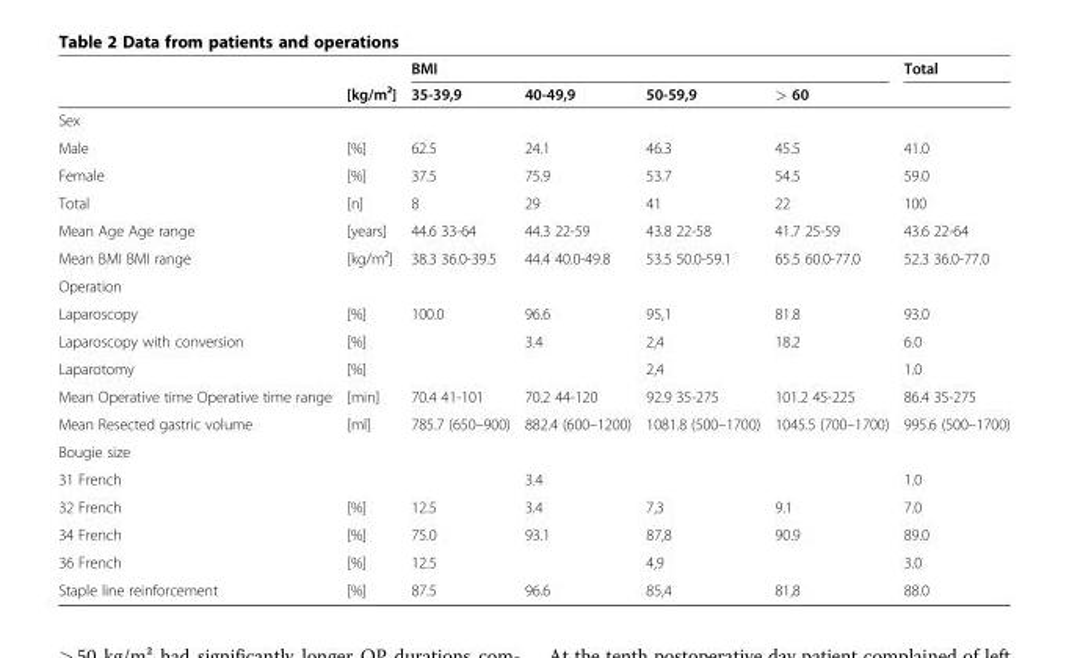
<table><thead><tr><td rowspan="2"></td><td rowspan="2">[kg/m²]</td><td colspan="4">BMI</td><td rowspan="2">Total</td></tr><tr><td>35-39,9</td><td>40-49,9</td><td>50-59,9</td><td>&gt; 60</td></tr></thead><tbody><tr><td colspan="7">Sex</td></tr><tr><td>Male</td><td>[%]</td><td>62.5</td><td>24.1</td><td>46.3</td><td>45.5</td><td>41.0</td></tr><tr><td>Female</td><td>[%]</td><td>37.5</td><td>75.9</td><td>53.7</td><td>54.5</td><td>59.0</td></tr><tr><td>Total</td><td>[n]</td><td>8</td><td>29</td><td>41</td><td>22</td><td>100</td></tr><tr><td>Mean Age Age range</td><td>[years]</td><td>44.6 33-64</td><td>44.3 22-59</td><td>43.8 22-58</td><td>41.7 25-59</td><td>43.6 22-64</td></tr><tr><td>Mean BMI BMI range</td><td>[kg/m²]</td><td>38.3 36.0-39.5</td><td>44.4 40.0-49.8</td><td>53.5 50.0-59.1</td><td>65.5 60.0-77.0</td><td>52.3 36.0-77.0</td></tr><tr><td colspan="7">Operation</td></tr><tr><td>Laparoscopy</td><td>[%]</td><td>100.0</td><td>96.6</td><td>95,1</td><td>81.8</td><td>93.0</td></tr><tr><td>Laparoscopy with conversion</td><td>[%]</td><td></td><td>3.4</td><td>2,4</td><td>18.2</td><td>6.0</td></tr><tr><td>Laparotomy</td><td>[%]</td><td></td><td></td><td>2,4</td><td></td><td>1.0</td></tr><tr><td>Mean Operative time Operative time range</td><td>[min]</td><td>70.4 41-101</td><td>70.2 44-120</td><td>92.9 35-275</td><td>101.2 45-225</td><td>86.4 35-275</td></tr><tr><td>Mean Resected gastric volume</td><td>[ml]</td><td>785.7 (650–900)</td><td>882.4 (600–1200)</td><td>1081.8 (500–1700)</td><td>1045.5 (700–1700)</td><td>995.6 (500–1700)</td></tr><tr><td colspan="7">Bougie size</td></tr><tr><td>31 French</td><td></td><td></td><td>3.4</td><td></td><td></td><td>1.0</td></tr><tr><td>32 French</td><td>[%]</td><td>12.5</td><td>3.4</td><td>7,3</td><td>9.1</td><td>7.0</td></tr><tr><td>34 French</td><td>[%]</td><td>75.0</td><td>93.1</td><td>87,8</td><td>90.9</td><td>89.0</td></tr><tr><td>36 French</td><td>[%]</td><td>12.5</td><td></td><td>4,9</td><td></td><td>3.0</td></tr><tr><td>Staple line reinforcement</td><td>[%]</td><td>87.5</td><td>96.6</td><td>85,4</td><td>81,8</td><td>88.0</td></tr></tbody></table>